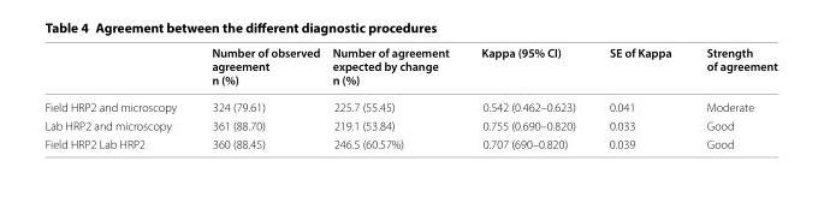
<table><thead><tr><td></td><td>Number of observed agreement n (%)</td><td>Number of agreement expected by change n (%)</td><td>Kappa (95% CI)</td><td>SE of Kappa</td><td>Strength of agreement</td></tr></thead><tbody><tr><td>Field HRP2 and microscopy</td><td>324 (79.61)</td><td>225.7 (55.45)</td><td>0.542 (0.462–0.623)</td><td>0.041</td><td>Moderate</td></tr><tr><td>Lab HRP2 and microscopy</td><td>361 (88.70)</td><td>219.1 (53.84)</td><td>0.755 (0.690–0.820)</td><td>0.033</td><td>Good</td></tr><tr><td>Field HRP2 Lab HRP2</td><td>360 (88.45)</td><td>246.5 (60.57%)</td><td>0.707 (690–0.820)</td><td>0.039</td><td>Good</td></tr></tbody></table>